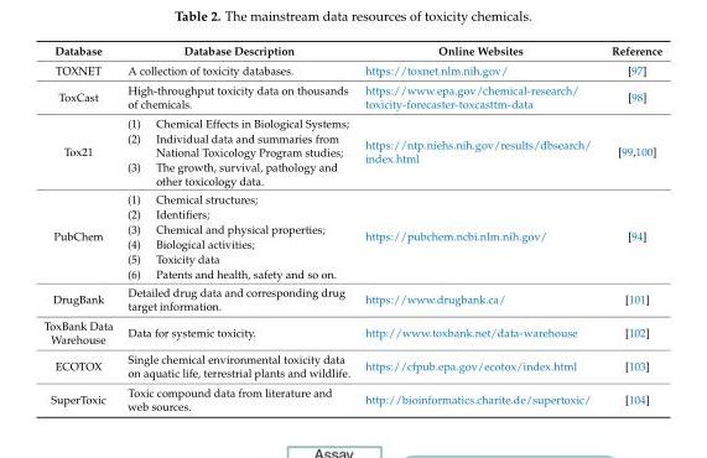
<table><thead><tr><td>Database</td><td>Database Description</td><td>Online Websites</td><td>Reference</td></tr></thead><tbody><tr><td>TOXNET</td><td>A collection of toxicity databases.</td><td>https://toxnet.nlm.nih.gov/</td><td>[97]</td></tr><tr><td>ToxCast</td><td>High-throughput toxicity data on thousands of chemicals.</td><td>https://www.epa.gov/chemical-research/ toxicity-forecaster-toxcasttm-data</td><td>[98]</td></tr><tr><td>Tox21</td><td>(1) Chemical Effects in Biological Systems; (2) Individual data and summaries from National Toxicology Program studies; (3) The growth, survival, pathology and other toxicology data.</td><td>https://ntp.niehs.nih.gov/results/dbsearch/ index.html</td><td>[99,100]</td></tr><tr><td>PubChem</td><td>(1) Chemical structures; (2) Identifiers; (3) Chemical and physical properties; (4) Biological activities; (5) Toxicity data (6) Patents and health, safety and so on.</td><td>https://pubchem.ncbi.nlm.nih.gov/</td><td>[94]</td></tr><tr><td>DrugBank</td><td>Detailed drug data and corresponding drug target information.</td><td>https://www.drugbank.ca/</td><td>[101]</td></tr><tr><td>ToxBank Data Warehouse</td><td>Data for systemic toxicity.</td><td>http://www.toxbank.net/data-warehouse</td><td>[102]</td></tr><tr><td>ECOTOX</td><td>Single chemical environmental toxicity data on aquatic life, terrestrial plants and wildlife.</td><td>https://cfpub.epa.gov/ecotox/index.html</td><td>[103]</td></tr><tr><td>SuperToxic</td><td>Toxic compound data from literature and web sources.</td><td>http://bioinformatics.charite.de/supertoxic/</td><td>[104]</td></tr></tbody></table>